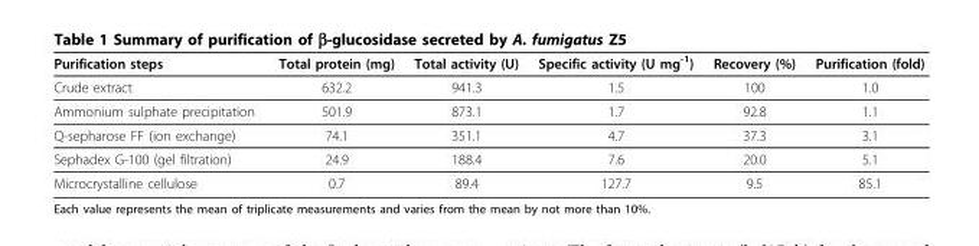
<table><thead><tr><td>Purification steps</td><td>Total protein (mg)</td><td>Total activity (U)</td><td>Specific activity (U mg<sup>-1</sup>)</td><td>Recovery (%)</td><td>Purification (fold)</td></tr></thead><tbody><tr><td>Crude extract</td><td>632.2</td><td>941.3</td><td>1.5</td><td>100</td><td>1.0</td></tr><tr><td>Ammonium sulphate precipitation</td><td>501.9</td><td>873.1</td><td>1.7</td><td>92.8</td><td>1.1</td></tr><tr><td>Q-sepharose FF (ion exchange)</td><td>74.1</td><td>351.1</td><td>4.7</td><td>37.3</td><td>3.1</td></tr><tr><td>Sephadex G-100 (gel filtration)</td><td>24.9</td><td>188.4</td><td>7.6</td><td>20.0</td><td>5.1</td></tr><tr><td>Microcrystalline cellulose</td><td>0.7</td><td>89.4</td><td>127.7</td><td>9.5</td><td>85.1</td></tr></tbody></table>